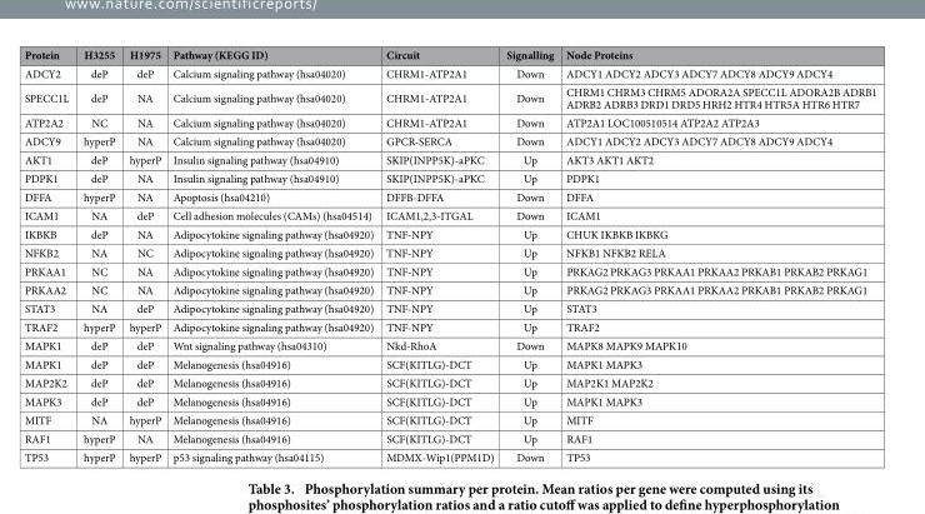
<table><thead><tr><td>Protein</td><td>H3255</td><td>H1975</td><td>Pathway (KEGG ID)</td><td>Circuit</td><td>Signalling</td><td>Node Proteins</td></tr></thead><tbody><tr><td>ADCY2</td><td>deP</td><td>deP</td><td>Calcium signaling pathway (hsa04020)</td><td>CHRM1-ATP2A1</td><td>Down</td><td>ADCY1 ADCY2 ADCY3 ADCY7 ADCY8 ADCY9 ADCY4</td></tr><tr><td>SPECC1L</td><td>deP</td><td>NA</td><td>Calcium signaling pathway (hsa04020)</td><td>CHRM1-ATP2A1</td><td>Down</td><td>CHRM1 CHRM3 CHRM5 ADORA2A SPECC1L ADORA2B ADRB1 ADRB2 ADRB3 DRD1 DRD5 HRH2 HTR4 HTR5A HTR6 HTR7</td></tr><tr><td>ATP2A2</td><td>NC</td><td>NA</td><td>Calcium signaling pathway (hsa04020)</td><td>CHRM1-ATP2A1</td><td>Down</td><td>ATP2A1 LOC100510514 ATP2A2 ATP2A3</td></tr><tr><td>ADCY9</td><td>hyperP</td><td>NA</td><td>Calcium signaling pathway (hsa04020)</td><td>GPCR-SERCA</td><td>Down</td><td>ADCY1 ADCY2 ADCY3 ADCY7 ADCY8 ADCY9 ADCY4</td></tr><tr><td>AKT1</td><td>deP</td><td>hyperP</td><td>Insulin signaling pathway (hsa04910)</td><td>SKIP(INPP5K)-aPKC</td><td>Up</td><td>AKT3 AKT1 AKT2</td></tr><tr><td>PDPK1</td><td>deP</td><td>NA</td><td>Insulin signaling pathway (hsa04910)</td><td>SKIP(INPP5K)-aPKC</td><td>Up</td><td>PDPK1</td></tr><tr><td>DFFA</td><td>hyperP</td><td>NA</td><td>Apoptosis (hsa04210)</td><td>DFFB-DFFA</td><td>Down</td><td>DFFA</td></tr><tr><td>ICAM1</td><td>NA</td><td>deP</td><td>Cell adhesion molecules (CAMs) (hsa04514)</td><td>ICAM1,2,3-ITGAL</td><td>Down</td><td>ICAM1</td></tr><tr><td>IKBKB</td><td>deP</td><td>NA</td><td>Adipocytokine signaling pathway (hsa04920)</td><td>TNF-NPY</td><td>Up</td><td>CHUK IKBKB IKBKG</td></tr><tr><td>NFKB2</td><td>NA</td><td>NC</td><td>Adipocytokine signaling pathway (hsa04920)</td><td>TNF-NPY</td><td>Up</td><td>NFKB1 NFKB2 RELA</td></tr><tr><td>PRKAA1</td><td>NC</td><td>NA</td><td>Adipocytokine signaling pathway (hsa04920)</td><td>TNF-NPY</td><td>Up</td><td>PRKAG2 PRKAG3 PRKAA1 PRKAA2 PRKAB1 PRKAB2 PRKAG1</td></tr><tr><td>PRKAA2</td><td>NC</td><td>NA</td><td>Adipocytokine signaling pathway (hsa04920)</td><td>TNF-NPY</td><td>Up</td><td>PRKAG2 PRKAG3 PRKAA1 PRKAA2 PRKAB1 PRKAB2 PRKAG1</td></tr><tr><td>STAT3</td><td>NA</td><td>deP</td><td>Adipocytokine signaling pathway (hsa04920)</td><td>TNF-NPY</td><td>Up</td><td>STAT3</td></tr><tr><td>TRAF2</td><td>hyperP</td><td>hyperP</td><td>Adipocytokine signaling pathway (hsa04920)</td><td>TNF-NPY</td><td>Up</td><td>TRAF2</td></tr><tr><td>MAPK1</td><td>deP</td><td>deP</td><td>Wnt signaling pathway (hsa04310)</td><td>Nkd-RhoA</td><td>Down</td><td>MAPK8 MAPK9 MAPK10</td></tr><tr><td>MAPK1</td><td>deP</td><td>deP</td><td>Melanogenesis (hsa04916)</td><td>SCF(KITLG)-DCT</td><td>Up</td><td>MAPK1 MAPK3</td></tr><tr><td>MAP2K2</td><td>deP</td><td>deP</td><td>Melanogenesis (hsa04916)</td><td>SCF(KITLG)-DCT</td><td>Up</td><td>MAP2K1 MAP2K2</td></tr><tr><td>MAPK3</td><td>deP</td><td>deP</td><td>Melanogenesis (hsa04916)</td><td>SCF(KITLG)-DCT</td><td>Up</td><td>MAPK1 MAPK3</td></tr><tr><td>MITF</td><td>NA</td><td>hyperP</td><td>Melanogenesis (hsa04916)</td><td>SCF(KITLG)-DCT</td><td>Up</td><td>MITF</td></tr><tr><td>RAF1</td><td>hyperP</td><td>NA</td><td>Melanogenesis (hsa04916)</td><td>SCF(KITLG)-DCT</td><td>Up</td><td>RAF1</td></tr><tr><td>TP53</td><td>hyperP</td><td>hyperP</td><td>p53 signaling pathway (hsa04115)</td><td>MDMX-Wip1(PPM1D)</td><td>Down</td><td>TP53</td></tr></tbody></table>